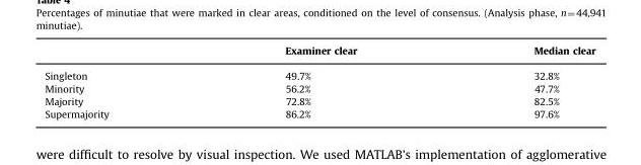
<table><thead><tr><td></td><td>Examiner clear</td><td>Median clear</td></tr></thead><tbody><tr><td>Singleton</td><td>49.7%</td><td>32.8%</td></tr><tr><td>Minority</td><td>56.2%</td><td>47.7%</td></tr><tr><td>Majority</td><td>72.8%</td><td>82.5%</td></tr><tr><td>Supermajority</td><td>86.2%</td><td>97.6%</td></tr></tbody></table>